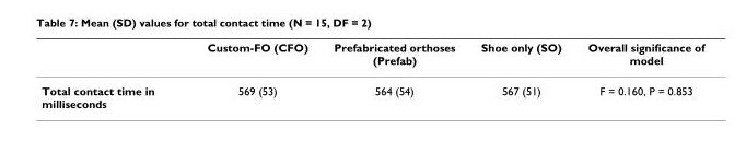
<table><thead><tr><td></td><td>Custom-FO (CFO)</td><td>Prefabricated orthoses (Prefab)</td><td>Shoe only (SO)</td><td>Overall significance of model</td></tr></thead><tbody><tr><td>Total contact time in milliseconds</td><td>569 (53)</td><td>564 (54)</td><td>567 (51)</td><td>F = 0.160, P = 0.853</td></tr></tbody></table>